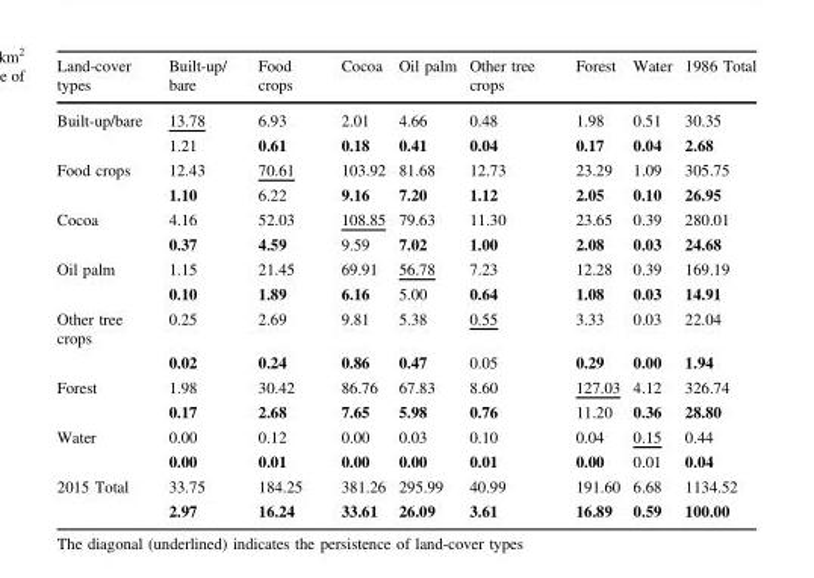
<table><thead><tr><td>Land-cover types</td><td>Built-up/ bare</td><td>Food crops</td><td>Cocoa</td><td>Oil palm</td><td>Other tree crops</td><td>Forest</td><td>Water</td><td>1986 Total</td></tr></thead><tbody><tr><td rowspan="2">Built-up/bare</td><td>13.78</td><td>6.93</td><td>2.01</td><td>4.66</td><td>0.48</td><td>1.98</td><td>0.51</td><td>30.35</td></tr><tr><td>1.21</td><td>0.61</td><td>0.18</td><td>0.41</td><td>0.04</td><td>0.17</td><td>0.04</td><td>2.68</td></tr><tr><td rowspan="2">Food crops</td><td>12.43</td><td>70.61</td><td>103.92</td><td>81.68</td><td>12.73</td><td>23.29</td><td>1.09</td><td>305.75</td></tr><tr><td>1.10</td><td>6.22</td><td>9.16</td><td>7.20</td><td>1.12</td><td>2.05</td><td>0.10</td><td>26.95</td></tr><tr><td rowspan="2">Cocoa</td><td>4.16</td><td>52.03</td><td>108.85</td><td>79.63</td><td>11.30</td><td>23.65</td><td>0.39</td><td>280.01</td></tr><tr><td>0.37</td><td>4.59</td><td>9.59</td><td>7.02</td><td>1.00</td><td>2.08</td><td>0.03</td><td>24.68</td></tr><tr><td rowspan="2">Oil palm</td><td>1.15</td><td>21.45</td><td>69.91</td><td>56.78</td><td>7.23</td><td>12.28</td><td>0.39</td><td>169.19</td></tr><tr><td>0.10</td><td>1.89</td><td>6.16</td><td>5.00</td><td>0.64</td><td>1.08</td><td>0.03</td><td>14.91</td></tr><tr><td rowspan="2">Other tree crops</td><td>0.25</td><td>2.69</td><td>9.81</td><td>5.38</td><td>0.55</td><td>3.33</td><td>0.03</td><td>22.04</td></tr><tr><td>0.02</td><td>0.24</td><td>0.86</td><td>0.47</td><td>0.05</td><td>0.29</td><td>0.00</td><td>1.94</td></tr><tr><td rowspan="2">Forest</td><td>1.98</td><td>30.42</td><td>86.76</td><td>67.83</td><td>8.60</td><td>127.03</td><td>4.12</td><td>326.74</td></tr><tr><td>0.17</td><td>2.68</td><td>7.65</td><td>5.98</td><td>0.76</td><td>11.20</td><td>0.36</td><td>28.80</td></tr><tr><td rowspan="2">Water</td><td>0.00</td><td>0.12</td><td>0.00</td><td>0.03</td><td>0.10</td><td>0.04</td><td>0.15</td><td>0.44</td></tr><tr><td>0.00</td><td>0.01</td><td>0.00</td><td>0.00</td><td>0.01</td><td>0.00</td><td>0.01</td><td>0.04</td></tr><tr><td rowspan="2">2015 Total</td><td>33.75</td><td>184.25</td><td>381.26</td><td>295.99</td><td>40.99</td><td>191.60</td><td>6.68</td><td>1134.52</td></tr><tr><td>2.97</td><td>16.24</td><td>33.61</td><td>26.09</td><td>3.61</td><td>16.89</td><td>0.59</td><td>100.00</td></tr></tbody></table>